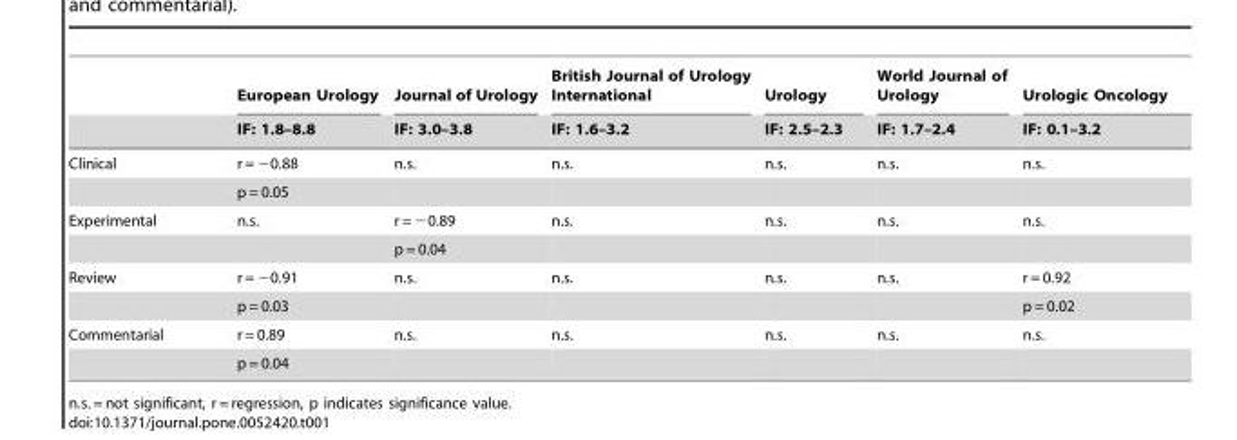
<table><thead><tr><td rowspan="2"></td><td rowspan="2">European Urology IF: 1.8–8.8</td><td rowspan="2">Journal of Urology IF: 3.0–3.8</td><td rowspan="2">British Journal of Urology International IF: 1.6–3.2</td><td rowspan="2">Urology IF: 2.5–2.3</td><td rowspan="2">World Journal of Urology IF: 1.7–2.4</td><td rowspan="2">Urologic Oncology IF: 0.1–3.2</td></tr><tr></tr></thead><tbody><tr><td rowspan="2">Clinical</td><td>r = −0.88</td><td>n.s.</td><td>n.s.</td><td>n.s.</td><td>n.s.</td><td>n.s.</td></tr><tr><td>p = 0.05</td><td></td><td></td><td></td><td></td><td></td></tr><tr><td rowspan="2">Experimental</td><td>n.s.</td><td>r = −0.89</td><td>n.s.</td><td>n.s.</td><td>n.s.</td><td>n.s.</td></tr><tr><td></td><td>p = 0.04</td><td></td><td></td><td></td><td></td></tr><tr><td rowspan="2">Review</td><td>r = −0.91</td><td>n.s.</td><td>n.s.</td><td>n.s.</td><td>n.s.</td><td>r = 0.92</td></tr><tr><td>p = 0.03</td><td></td><td></td><td></td><td></td><td>p = 0.02</td></tr><tr><td rowspan="2">Commentarial</td><td>r = 0.89</td><td>n.s.</td><td>n.s.</td><td>n.s.</td><td>n.s.</td><td>n.s.</td></tr><tr><td>p = 0.04</td><td></td><td></td><td></td><td></td><td></td></tr></tbody></table>